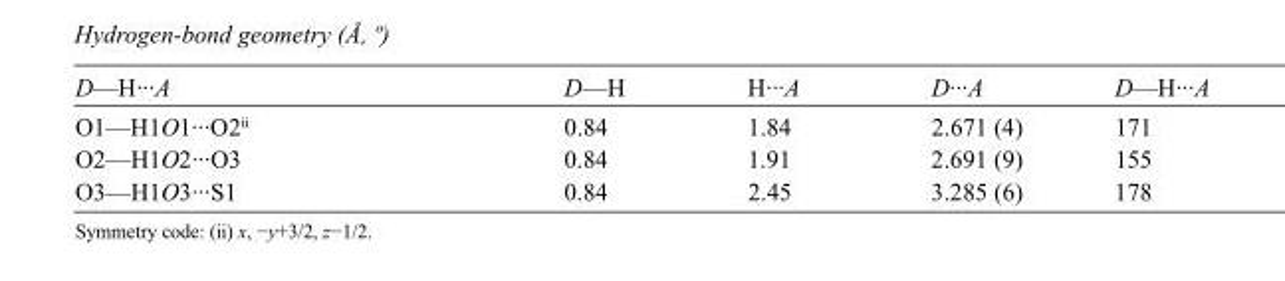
<table><tbody><tr><td>D—H···A</td><td>D—H</td><td>H···A</td><td>D···A</td><td>D—H···A</td></tr><tr><td>O1—H1O1···O2<sup>ii</sup></td><td>0.84</td><td>1.84</td><td>2.671 (4)</td><td>171</td></tr><tr><td>O2—H1O2···O3</td><td>0.84</td><td>1.91</td><td>2.691 (9)</td><td>155</td></tr><tr><td>O3—H1O3···S1</td><td>0.84</td><td>2.45</td><td>3.285 (6)</td><td>178</td></tr></tbody></table>